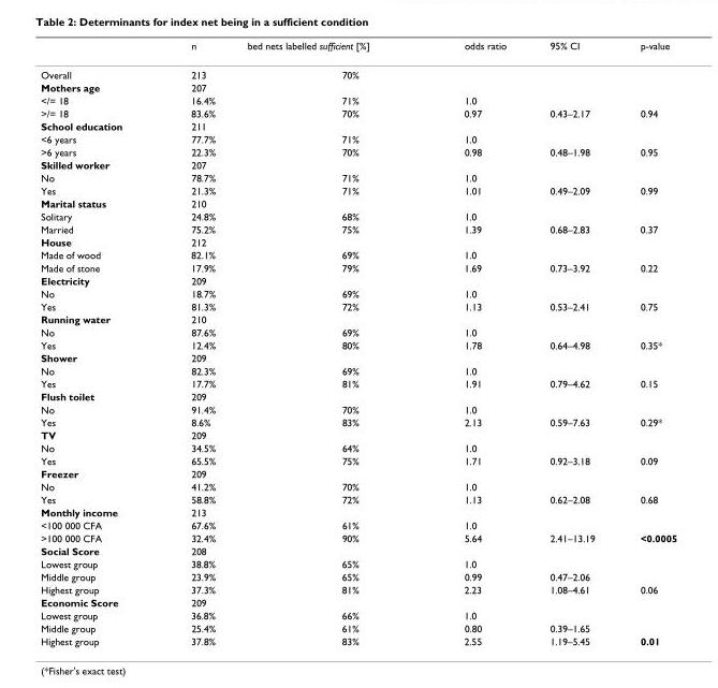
<table><thead><tr><td></td><td>n</td><td>bed nets labelled sufficient [%]</td><td>odds ratio</td><td>95% CI</td><td>p-value</td></tr></thead><tbody><tr><td>Overall</td><td>213</td><td>70%</td><td></td><td></td><td></td></tr><tr><td>Mothers age</td><td>207</td><td></td><td></td><td></td><td></td></tr><tr><td>&lt;/= 18</td><td>16.4%</td><td>71%</td><td>1.0</td><td></td><td></td></tr><tr><td>&gt;/= 18</td><td>83.6%</td><td>70%</td><td>0.97</td><td>0.43–2.17</td><td>0.94</td></tr><tr><td>School education</td><td>211</td><td></td><td></td><td></td><td></td></tr><tr><td>&lt;6 years</td><td>77.7%</td><td>71%</td><td>1.0</td><td></td><td></td></tr><tr><td>&gt;6 years</td><td>22.3%</td><td>70%</td><td>0.98</td><td>0.48–1.98</td><td>0.95</td></tr><tr><td>Skilled worker</td><td>207</td><td></td><td></td><td></td><td></td></tr><tr><td>No</td><td>78.7%</td><td>71%</td><td>1.0</td><td></td><td></td></tr><tr><td>Yes</td><td>21.3%</td><td>71%</td><td>1.01</td><td>0.49–2.09</td><td>0.99</td></tr><tr><td>Marital status</td><td>210</td><td></td><td></td><td></td><td></td></tr><tr><td>Solitary</td><td>24.8%</td><td>68%</td><td>1.0</td><td></td><td></td></tr><tr><td>Married</td><td>75.2%</td><td>75%</td><td>1.39</td><td>0.68–2.83</td><td>0.37</td></tr><tr><td>House</td><td>212</td><td></td><td></td><td></td><td></td></tr><tr><td>Made of wood</td><td>82.1%</td><td>69%</td><td>1.0</td><td></td><td></td></tr><tr><td>Made of stone</td><td>17.9%</td><td>79%</td><td>1.69</td><td>0.73–3.92</td><td>0.22</td></tr><tr><td>Electricity</td><td>209</td><td></td><td></td><td></td><td></td></tr><tr><td>No</td><td>18.7%</td><td>69%</td><td>1.0</td><td></td><td></td></tr><tr><td>Yes</td><td>81.3%</td><td>72%</td><td>1.13</td><td>0.53–2.41</td><td>0.75</td></tr><tr><td>Running water</td><td>210</td><td></td><td></td><td></td><td></td></tr><tr><td>No</td><td>87.6%</td><td>69%</td><td>1.0</td><td></td><td></td></tr><tr><td>Yes</td><td>12.4%</td><td>80%</td><td>1.78</td><td>0.64–4.98</td><td>0.35*</td></tr><tr><td>Shower</td><td>209</td><td></td><td></td><td></td><td></td></tr><tr><td>No</td><td>82.3%</td><td>69%</td><td>1.0</td><td></td><td></td></tr><tr><td>Yes</td><td>17.7%</td><td>81%</td><td>1.91</td><td>0.79–4.62</td><td>0.15</td></tr><tr><td>Flush toilet</td><td>209</td><td></td><td></td><td></td><td></td></tr><tr><td>No</td><td>91.4%</td><td>70%</td><td>1.0</td><td></td><td></td></tr><tr><td>Yes</td><td>8.6%</td><td>83%</td><td>2.13</td><td>0.59–7.63</td><td>0.29*</td></tr><tr><td>TV</td><td>209</td><td></td><td></td><td></td><td></td></tr><tr><td>No</td><td>34.5%</td><td>64%</td><td>1.0</td><td></td><td></td></tr><tr><td>Yes</td><td>65.5%</td><td>75%</td><td>1.71</td><td>0.92–3.18</td><td>0.09</td></tr><tr><td>Freezer</td><td>209</td><td></td><td></td><td></td><td></td></tr><tr><td>No</td><td>41.2%</td><td>70%</td><td>1.0</td><td></td><td></td></tr><tr><td>Yes</td><td>58.8%</td><td>72%</td><td>1.13</td><td>0.62–2.08</td><td>0.68</td></tr><tr><td>Monthly income</td><td>213</td><td></td><td></td><td></td><td></td></tr><tr><td>&lt;100 000 CFA</td><td>67.6%</td><td>61%</td><td>1.0</td><td></td><td></td></tr><tr><td>&gt;100 000 CFA</td><td>32.4%</td><td>90%</td><td>5.64</td><td>2.41–13.19</td><td>&lt;0.0005</td></tr><tr><td>Social Score</td><td>208</td><td></td><td></td><td></td><td></td></tr><tr><td>Lowest group</td><td>38.8%</td><td>65%</td><td>1.0</td><td></td><td></td></tr><tr><td>Middle group</td><td>23.9%</td><td>65%</td><td>0.99</td><td>0.47–2.06</td><td></td></tr><tr><td>Highest group</td><td>37.3%</td><td>81%</td><td>2.23</td><td>1.08–4.61</td><td>0.06</td></tr><tr><td>Economic Score</td><td>209</td><td></td><td></td><td></td><td></td></tr><tr><td>Lowest group</td><td>36.8%</td><td>66%</td><td>1.0</td><td></td><td></td></tr><tr><td>Middle group</td><td>25.4%</td><td>61%</td><td>0.80</td><td>0.39–1.65</td><td></td></tr><tr><td>Highest group</td><td>37.8%</td><td>83%</td><td>2.55</td><td>1.19–5.45</td><td>0.01</td></tr></tbody></table>